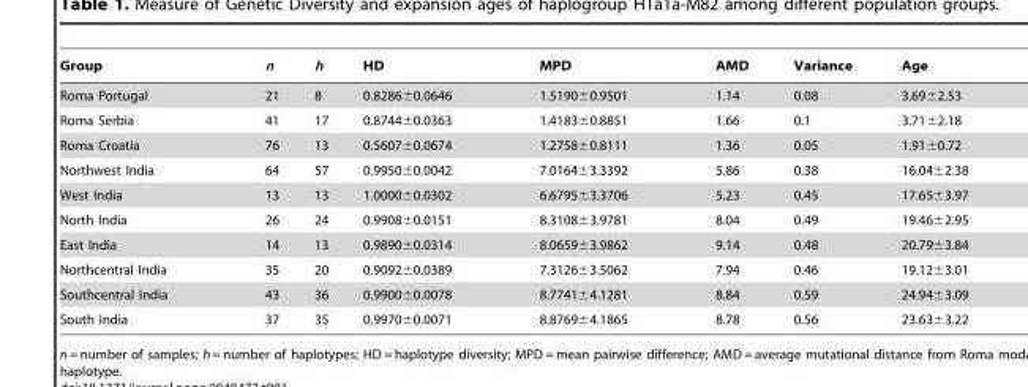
<table><thead><tr><td>Group</td><td>n</td><td>h</td><td>HD</td><td>MPD</td><td>AMD</td><td>Variance</td><td>Age</td></tr></thead><tbody><tr><td>Roma Portugal</td><td>21</td><td>8</td><td>0.8286±0.0646</td><td>1.5190±0.9501</td><td>1.14</td><td>0.08</td><td>3.69±2.53</td></tr><tr><td>Roma Serbia</td><td>41</td><td>17</td><td>0.8744±0.0363</td><td>1.4183±0.8851</td><td>1.66</td><td>0.1</td><td>3.71±2.18</td></tr><tr><td>Roma Croatia</td><td>76</td><td>13</td><td>0.5607±0.0674</td><td>1.2758±0.8111</td><td>1.36</td><td>0.05</td><td>1.91±0.72</td></tr><tr><td>Northwest India</td><td>64</td><td>57</td><td>0.9950±0.0042</td><td>7.0164±3.3392</td><td>5.86</td><td>0.38</td><td>16.04±2.38</td></tr><tr><td>West India</td><td>13</td><td>13</td><td>1.0000±0.0302</td><td>6.6795±3.3706</td><td>5.23</td><td>0.45</td><td>17.65±3.97</td></tr><tr><td>North India</td><td>26</td><td>24</td><td>0.9908±0.0151</td><td>8.3108±3.9781</td><td>8.04</td><td>0.49</td><td>19.46±2.95</td></tr><tr><td>East India</td><td>14</td><td>13</td><td>0.9890±0.0314</td><td>8.0659±3.9862</td><td>9.14</td><td>0.48</td><td>20.79±3.84</td></tr><tr><td>Northcentral India</td><td>35</td><td>20</td><td>0.9092±0.0389</td><td>7.3126±3.5062</td><td>7.94</td><td>0.46</td><td>19.12±3.01</td></tr><tr><td>Southcentral India</td><td>43</td><td>36</td><td>0.9900±0.0078</td><td>8.7741±4.1281</td><td>8.84</td><td>0.59</td><td>24.94±3.09</td></tr><tr><td>South India</td><td>37</td><td>35</td><td>0.9970±0.0071</td><td>8.8769±4.1865</td><td>8.78</td><td>0.56</td><td>23.63±3.22</td></tr></tbody></table>